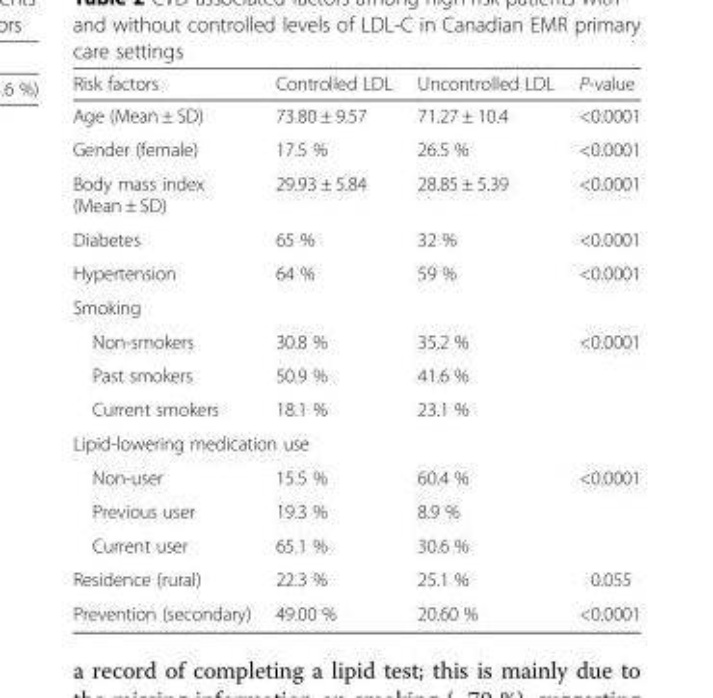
<table><thead><tr><td>Risk factors</td><td>Controlled LDL</td><td>Uncontrolled LDL</td><td>P-value</td></tr></thead><tbody><tr><td>Age (Mean ± SD)</td><td>73.80 ± 9.57</td><td>71.27 ± 10.4</td><td>&lt;0.0001</td></tr><tr><td>Gender (female)</td><td>17.5 %</td><td>26.5 %</td><td>&lt;0.0001</td></tr><tr><td>Body mass index (Mean ± SD)</td><td>29.93 ± 5.84</td><td>28.85 ± 5.39</td><td>&lt;0.0001</td></tr><tr><td>Diabetes</td><td>65 %</td><td>32 %</td><td>&lt;0.0001</td></tr><tr><td>Hypertension</td><td>64 %</td><td>59 %</td><td>&lt;0.0001</td></tr><tr><td colspan="4">Smoking</td></tr><tr><td>Non-smokers</td><td>30.8 %</td><td>35.2 %</td><td rowspan="3">&lt;0.0001</td></tr><tr><td>Past smokers</td><td>50.9 %</td><td>41.6 %</td></tr><tr><td>Current smokers</td><td>18.1 %</td><td>23.1 %</td></tr><tr><td colspan="4">Lipid-lowering medication use</td></tr><tr><td>Non-user</td><td>15.5 %</td><td>60.4 %</td><td rowspan="3">&lt;0.0001</td></tr><tr><td>Previous user</td><td>19.3 %</td><td>8.9 %</td></tr><tr><td>Current user</td><td>65.1 %</td><td>30.6 %</td></tr><tr><td>Residence (rural)</td><td>22.3 %</td><td>25.1 %</td><td>0.055</td></tr><tr><td>Prevention (secondary)</td><td>49.00 %</td><td>20.60 %</td><td>&lt;0.0001</td></tr></tbody></table>